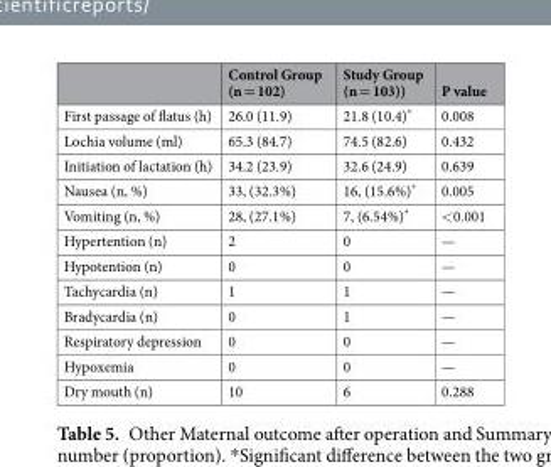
<table><thead><tr><td></td><td>Control Group (n = 102)</td><td>Study Group (n = 103))</td><td>P value</td></tr></thead><tbody><tr><td>First passage of flatus (h)</td><td>26.0 (11.9)</td><td>21.8 (10.4)*</td><td>0.008</td></tr><tr><td>Lochia volume (ml)</td><td>65.3 (84.7)</td><td>74.5 (82.6)</td><td>0.432</td></tr><tr><td>Initiation of lactation (h)</td><td>34.2 (23.9)</td><td>32.6 (24.9)</td><td>0.639</td></tr><tr><td>Nausea (n, %)</td><td>33, (32.3%)</td><td>16, (15.6%)*</td><td>0.005</td></tr><tr><td>Vomiting (n, %)</td><td>28, (27.1%)</td><td>7, (6.54%)*</td><td>&lt;0.001</td></tr><tr><td>Hypertention (n)</td><td>2</td><td>0</td><td>—</td></tr><tr><td>Hypotention (n)</td><td>0</td><td>0</td><td>—</td></tr><tr><td>Tachycardia (n)</td><td>1</td><td>1</td><td>—</td></tr><tr><td>Bradycardia (n)</td><td>0</td><td>1</td><td>—</td></tr><tr><td>Respiratory depression</td><td>0</td><td>0</td><td>—</td></tr><tr><td>Hypoxemia</td><td>0</td><td>0</td><td>—</td></tr><tr><td>Dry mouth (n)</td><td>10</td><td>6</td><td>0.288</td></tr></tbody></table>